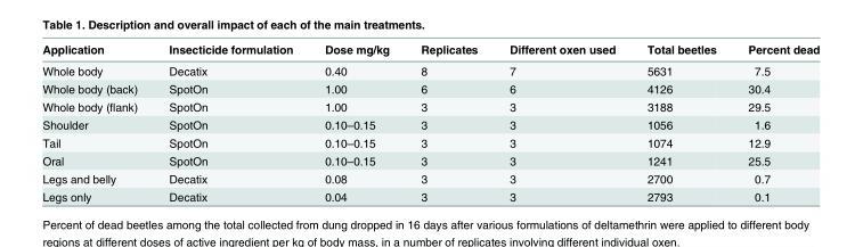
<table><thead><tr><td>Application</td><td>Insecticide formulation</td><td>Dose mg/kg</td><td>Replicates</td><td>Different oxen used</td><td>Total beetles</td><td>Percent dead</td></tr></thead><tbody><tr><td>Whole body</td><td>Decatix</td><td>0.40</td><td>8</td><td>7</td><td>5631</td><td>7.5</td></tr><tr><td>Whole body (back)</td><td>SpotOn</td><td>1.00</td><td>6</td><td>6</td><td>4126</td><td>30.4</td></tr><tr><td>Whole body (flank)</td><td>SpotOn</td><td>1.00</td><td>3</td><td>3</td><td>3188</td><td>29.5</td></tr><tr><td>Shoulder</td><td>SpotOn</td><td>0.10–0.15</td><td>3</td><td>3</td><td>1056</td><td>1.6</td></tr><tr><td>Tail</td><td>SpotOn</td><td>0.10–0.15</td><td>3</td><td>3</td><td>1074</td><td>12.9</td></tr><tr><td>Oral</td><td>SpotOn</td><td>0.10–0.15</td><td>3</td><td>3</td><td>1241</td><td>25.5</td></tr><tr><td>Legs and belly</td><td>Decatix</td><td>0.08</td><td>3</td><td>3</td><td>2700</td><td>0.7</td></tr><tr><td>Legs only</td><td>Decatix</td><td>0.04</td><td>3</td><td>3</td><td>2793</td><td>0.1</td></tr></tbody></table>